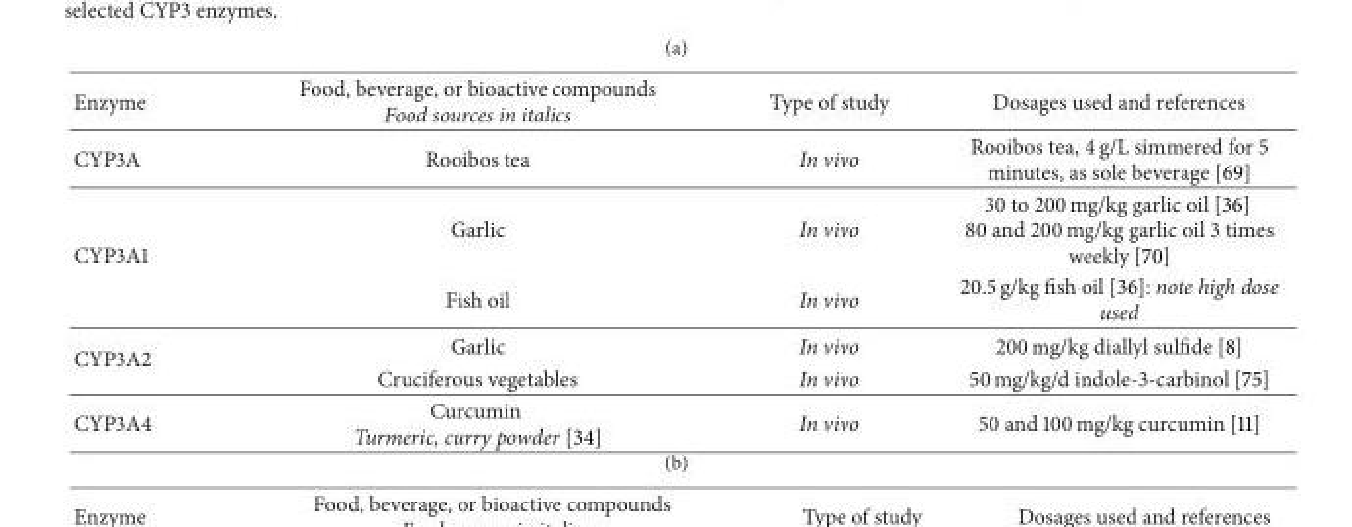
<table><thead><tr><td>Enzyme</td><td>Food, beverage, or bioactive compounds Food sources in italics</td><td>Type of study</td><td>Dosages used and references</td></tr></thead><tbody><tr><td>CYP3A</td><td>Rooibos tea</td><td>In vivo</td><td>Rooibos tea, 4 g/L simmered for 5 minutes, as sole beverage [69]</td></tr><tr><td rowspan="2">CYP3A1</td><td>Garlic</td><td>In vivo</td><td>30 to 200 mg/kg garlic oil [36] 80 and 200 mg/kg garlic oil 3 times weekly [70]</td></tr><tr><td>Fish oil</td><td>In vivo</td><td>20.5 g/kg fish oil [36]: note high dose used</td></tr><tr><td rowspan="2">CYP3A2</td><td>Garlic</td><td>In vivo</td><td>200 mg/kg diallyl sulfide [8]</td></tr><tr><td>Cruciferous vegetables</td><td>In vivo</td><td>50 mg/kg/d indole-3-carbinol [75]</td></tr><tr><td>CYP3A4</td><td>Curcumin Turmeric, curry powder [34]</td><td>In vivo</td><td>50 and 100 mg/kg curcumin [11]</td></tr></tbody></table>